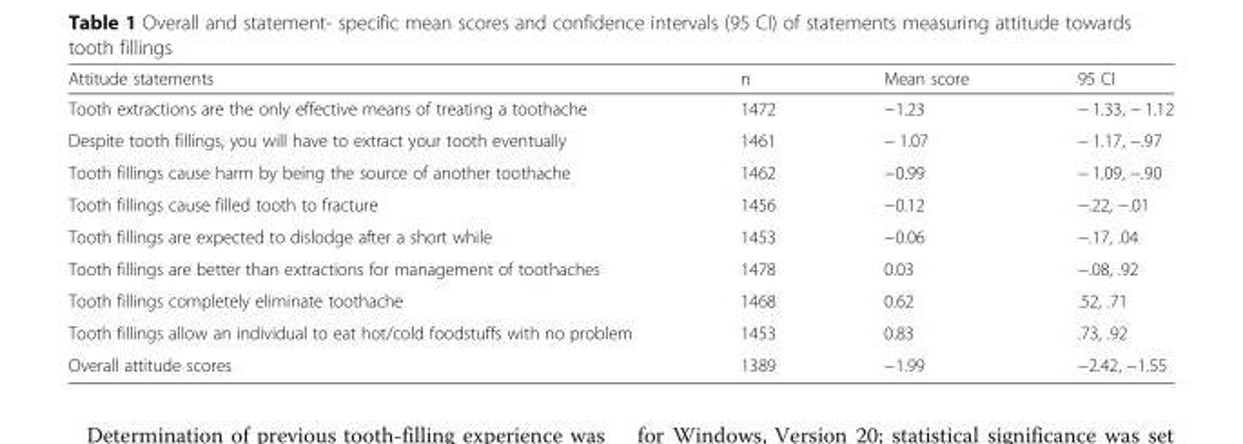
<table><thead><tr><td>Attitude statements</td><td>n</td><td>Mean score</td><td>95 CI</td></tr></thead><tbody><tr><td>Tooth extractions are the only effective means of treating a toothache</td><td>1472</td><td>−1.23</td><td>− 1.33, − 1.12</td></tr><tr><td>Despite tooth fillings, you will have to extract your tooth eventually</td><td>1461</td><td>− 1.07</td><td>− 1.17, −.97</td></tr><tr><td>Tooth fillings cause harm by being the source of another toothache</td><td>1462</td><td>−0.99</td><td>− 1.09, −.90</td></tr><tr><td>Tooth fillings cause filled tooth to fracture</td><td>1456</td><td>−0.12</td><td>−.22, −.01</td></tr><tr><td>Tooth fillings are expected to dislodge after a short while</td><td>1453</td><td>−0.06</td><td>−.17, .04</td></tr><tr><td>Tooth fillings are better than extractions for management of toothaches</td><td>1478</td><td>0.03</td><td>−.08, .92</td></tr><tr><td>Tooth fillings completely eliminate toothache</td><td>1468</td><td>0.62</td><td>.52, .71</td></tr><tr><td>Tooth fillings allow an individual to eat hot/cold foodstuffs with no problem</td><td>1453</td><td>0.83</td><td>.73, .92</td></tr><tr><td>Overall attitude scores</td><td>1389</td><td>−1.99</td><td>−2.42, −1.55</td></tr></tbody></table>